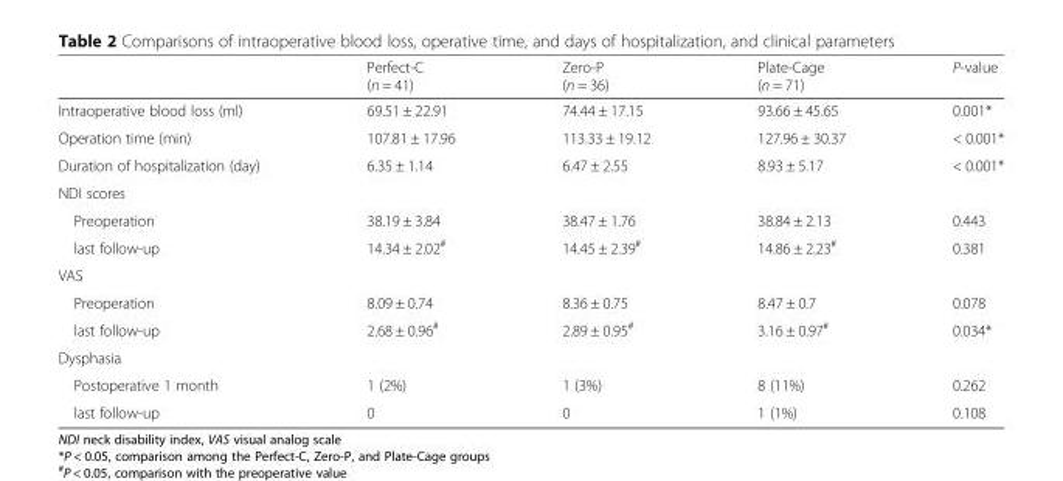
<table><thead><tr><td></td><td>Perfect-C (n = 41)</td><td>Zero-P (n = 36)</td><td>Plate-Cage (n = 71)</td><td>P-value</td></tr></thead><tbody><tr><td>Intraoperative blood loss (ml)</td><td>69.51 ± 22.91</td><td>74.44 ± 17.15</td><td>93.66 ± 45.65</td><td>0.001*</td></tr><tr><td>Operation time (min)</td><td>107.81 ± 17.96</td><td>113.33 ± 19.12</td><td>127.96 ± 30.37</td><td>&lt; 0.001*</td></tr><tr><td>Duration of hospitalization (day)</td><td>6.35 ± 1.14</td><td>6.47 ± 2.55</td><td>8.93 ± 5.17</td><td>&lt; 0.001*</td></tr><tr><td colspan="5">NDI scores</td></tr><tr><td>Preoperation</td><td>38.19 ± 3.84</td><td>38.47 ± 1.76</td><td>38.84 ± 2.13</td><td>0.443</td></tr><tr><td>last follow-up</td><td>14.34 ± 2.02<sup>#</sup></td><td>14.45 ± 2.39<sup>#</sup></td><td>14.86 ± 2.23<sup>#</sup></td><td>0.381</td></tr><tr><td colspan="5">VAS</td></tr><tr><td>Preoperation</td><td>8.09 ± 0.74</td><td>8.36 ± 0.75</td><td>8.47 ± 0.7</td><td>0.078</td></tr><tr><td>last follow-up</td><td>2.68 ± 0.96<sup>#</sup></td><td>2.89 ± 0.95<sup>#</sup></td><td>3.16 ± 0.97<sup>#</sup></td><td>0.034*</td></tr><tr><td colspan="5">Dysphasia</td></tr><tr><td>Postoperative 1 month</td><td>1 (2%)</td><td>1 (3%)</td><td>8 (11%)</td><td>0.262</td></tr><tr><td>last follow-up</td><td>0</td><td>0</td><td>1 (1%)</td><td>0.108</td></tr></tbody></table>